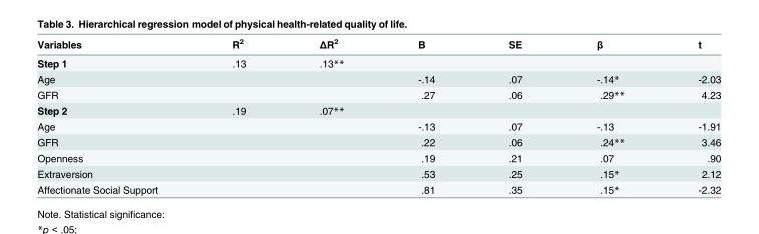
<table><thead><tr><td>Variables</td><td>R<sup>2</sup></td><td>ΔR<sup>2</sup></td><td>B</td><td>SE</td><td>β</td><td>t</td></tr></thead><tbody><tr><td>Step 1</td><td>.13</td><td>.13**</td><td></td><td></td><td></td><td></td></tr><tr><td>Age</td><td></td><td></td><td>-.14</td><td>.07</td><td>-.14*</td><td>-2.03</td></tr><tr><td>GFR</td><td></td><td></td><td>.27</td><td>.06</td><td>.29**</td><td>4.23</td></tr><tr><td>Step 2</td><td>.19</td><td>.07**</td><td></td><td></td><td></td><td></td></tr><tr><td>Age</td><td></td><td></td><td>-.13</td><td>.07</td><td>-.13</td><td>-1.91</td></tr><tr><td>GFR</td><td></td><td></td><td>.22</td><td>.06</td><td>.24**</td><td>3.46</td></tr><tr><td>Openness</td><td></td><td></td><td>.19</td><td>.21</td><td>.07</td><td>.90</td></tr><tr><td>Extraversion</td><td></td><td></td><td>.53</td><td>.25</td><td>.15*</td><td>2.12</td></tr><tr><td>Affectionate Social Support</td><td></td><td></td><td>.81</td><td>.35</td><td>.15*</td><td>-2.32</td></tr></tbody></table>